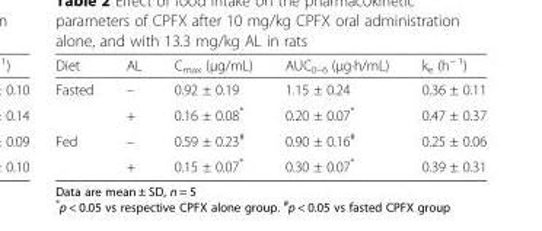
<table><thead><tr><td>Diet</td><td>AL</td><td>C<sub>max</sub> (μg/mL)</td><td>AUC<sub>0–6</sub> (μg∙h/mL)</td><td>k<sub>e</sub> (h<sup>− 1</sup>)</td></tr></thead><tbody><tr><td rowspan="2">Fasted</td><td>–</td><td>0.92 ± 0.19</td><td>1.15 ± 0.24</td><td>0.36 ± 0.11</td></tr><tr><td>+</td><td>0.16 ± 0.08*</td><td>0.20 ± 0.07*</td><td>0.47 ± 0.37</td></tr><tr><td rowspan="2">Fed</td><td>–</td><td>0.59 ± 0.23<sup>#</sup></td><td>0.90 ± 0.16<sup>#</sup></td><td>0.25 ± 0.06</td></tr><tr><td>+</td><td>0.15 ± 0.07*</td><td>0.30 ± 0.07*</td><td>0.39 ± 0.31</td></tr></tbody></table>